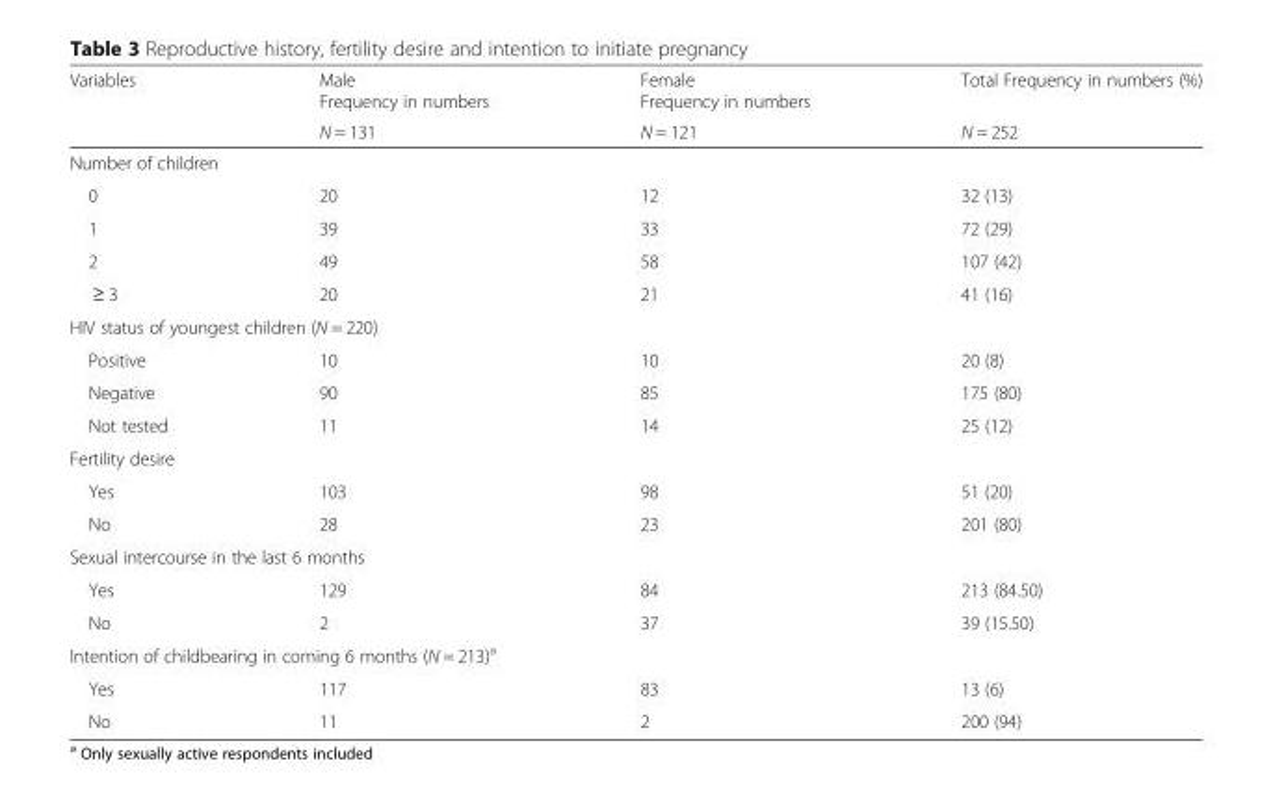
<table><thead><tr><td rowspan="2">Variables</td><td rowspan="2">Male Frequency in numbers N = 131</td><td rowspan="2">Female Frequency in numbers N = 121</td><td rowspan="2">Total Frequency in numbers (%) N = 252</td></tr><tr></tr></thead><tbody><tr><td colspan="4">Number of children</td></tr><tr><td>0</td><td>20</td><td>12</td><td>32 (13)</td></tr><tr><td>1</td><td>39</td><td>33</td><td>72 (29)</td></tr><tr><td>2</td><td>49</td><td>58</td><td>107 (42)</td></tr><tr><td>≥ 3</td><td>20</td><td>21</td><td>41 (16)</td></tr><tr><td colspan="4">HIV status of youngest children (N = 220)</td></tr><tr><td>Positive</td><td>10</td><td>10</td><td>20 (8)</td></tr><tr><td>Negative</td><td>90</td><td>85</td><td>175 (80)</td></tr><tr><td>Not tested</td><td>11</td><td>14</td><td>25 (12)</td></tr><tr><td colspan="4">Fertility desire</td></tr><tr><td>Yes</td><td>103</td><td>98</td><td>51 (20)</td></tr><tr><td>No</td><td>28</td><td>23</td><td>201 (80)</td></tr><tr><td colspan="4">Sexual intercourse in the last 6 months</td></tr><tr><td>Yes</td><td>129</td><td>84</td><td>213 (84.50)</td></tr><tr><td>No</td><td>2</td><td>37</td><td>39 (15.50)</td></tr><tr><td colspan="4">Intention of childbearing in coming 6 months (N = 213)<sup>a</sup></td></tr><tr><td>Yes</td><td>117</td><td>83</td><td>13 (6)</td></tr><tr><td>No</td><td>11</td><td>2</td><td>200 (94)</td></tr></tbody></table>